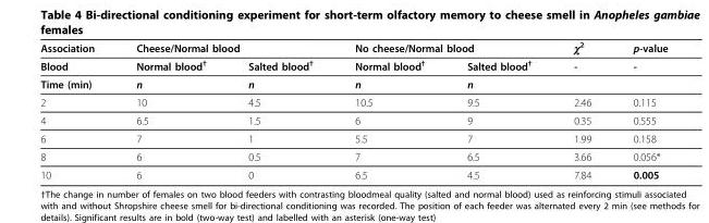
<table><thead><tr><td rowspan="2">Association Blood</td><td colspan="2">Cheese/Normal blood</td><td colspan="2">No cheese/Normal blood</td><td rowspan="2">χ2 -</td><td rowspan="2">p-value -</td></tr><tr><td>Normal blood†</td><td>Salted blood†</td><td>Normal blood†</td><td>Salted blood†</td></tr></thead><tbody><tr><td>Time (min)</td><td>n</td><td>n</td><td>n</td><td>n</td><td></td><td></td></tr><tr><td>2</td><td>10</td><td>4.5</td><td>10.5</td><td>9.5</td><td>2.46</td><td>0.115</td></tr><tr><td>4</td><td>6.5</td><td>1.5</td><td>6</td><td>9</td><td>0.35</td><td>0.555</td></tr><tr><td>6</td><td>7</td><td>1</td><td>5.5</td><td>7</td><td>1.99</td><td>0.158</td></tr><tr><td>8</td><td>6</td><td>0.5</td><td>7</td><td>6.5</td><td>3.66</td><td>0.056*</td></tr><tr><td>10</td><td>6</td><td>0</td><td>6.5</td><td>4.5</td><td>7.84</td><td>0.005</td></tr></tbody></table>